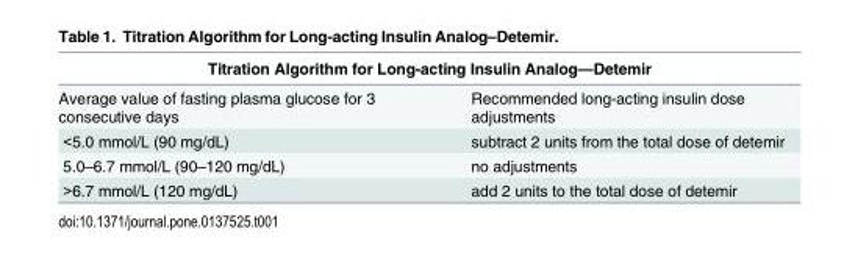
<table><thead><tr><td colspan="2">Titration Algorithm for Long-acting Insulin Analog—Detemir</td></tr><tr><td>Average value of fasting plasma glucose for 3 consecutive days</td><td>Recommended long-acting insulin dose adjustments</td></tr></thead><tbody><tr><td>&lt;5.0 mmol/L (90 mg/dL)</td><td>subtract 2 units from the total dose of detemir</td></tr><tr><td>5.0–6.7 mmol/L (90–120 mg/dL)</td><td>no adjustments</td></tr><tr><td>&gt;6.7 mmol/L (120 mg/dL)</td><td>add 2 units to the total dose of detemir</td></tr></tbody></table>